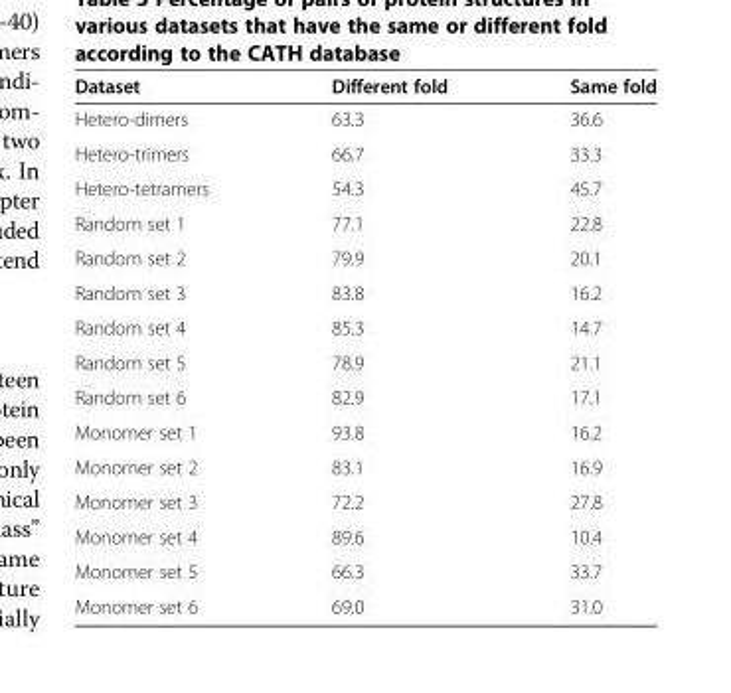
<table><thead><tr><td>Dataset</td><td>Different fold</td><td>Same fold</td></tr></thead><tbody><tr><td>Hetero-dimers</td><td>63.3</td><td>36.6</td></tr><tr><td>Hetero-trimers</td><td>66.7</td><td>33.3</td></tr><tr><td>Hetero-tetramers</td><td>54.3</td><td>45.7</td></tr><tr><td>Random set 1</td><td>77.1</td><td>22.8</td></tr><tr><td>Random set 2</td><td>79.9</td><td>20.1</td></tr><tr><td>Random set 3</td><td>83.8</td><td>16.2</td></tr><tr><td>Random set 4</td><td>85.3</td><td>14.7</td></tr><tr><td>Random set 5</td><td>78.9</td><td>21.1</td></tr><tr><td>Random set 6</td><td>82.9</td><td>17.1</td></tr><tr><td>Monomer set 1</td><td>93.8</td><td>16.2</td></tr><tr><td>Monomer set 2</td><td>83.1</td><td>16.9</td></tr><tr><td>Monomer set 3</td><td>72.2</td><td>27.8</td></tr><tr><td>Monomer set 4</td><td>89.6</td><td>10.4</td></tr><tr><td>Monomer set 5</td><td>66.3</td><td>33.7</td></tr><tr><td>Monomer set 6</td><td>69.0</td><td>31.0</td></tr></tbody></table>